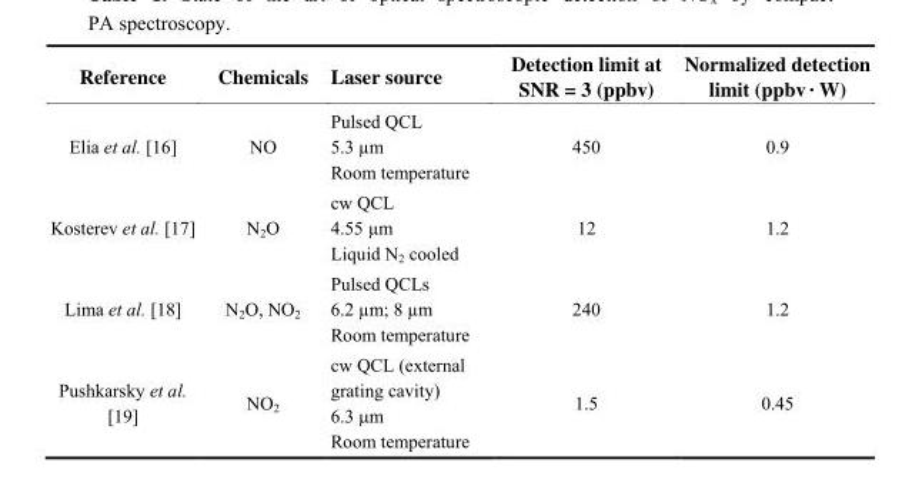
<table><thead><tr><td>Reference</td><td>Chemicals</td><td>Laser source</td><td>Detection limit at SNR = 3 (ppbv)</td><td>Normalized detection limit (ppbv · W)</td></tr></thead><tbody><tr><td>Elia et al. [16]</td><td>NO</td><td>Pulsed QCL 5.3 µm Room temperature</td><td>450</td><td>0.9</td></tr><tr><td>Kosterev et al. [17]</td><td>N<sub>2</sub>O</td><td>cw QCL 4.55 µm Liquid N<sub>2</sub> cooled</td><td>12</td><td>1.2</td></tr><tr><td>Lima et al. [18]</td><td>N<sub>2</sub>O, NO<sub>2</sub></td><td>Pulsed QCLs 6.2 µm; 8 µm Room temperature</td><td>240</td><td>1.2</td></tr><tr><td>Pushkarsky et al. [19]</td><td>NO<sub>2</sub></td><td>cw QCL (external grating cavity) 6.3 μm Room temperature</td><td>1.5</td><td>0.45</td></tr></tbody></table>